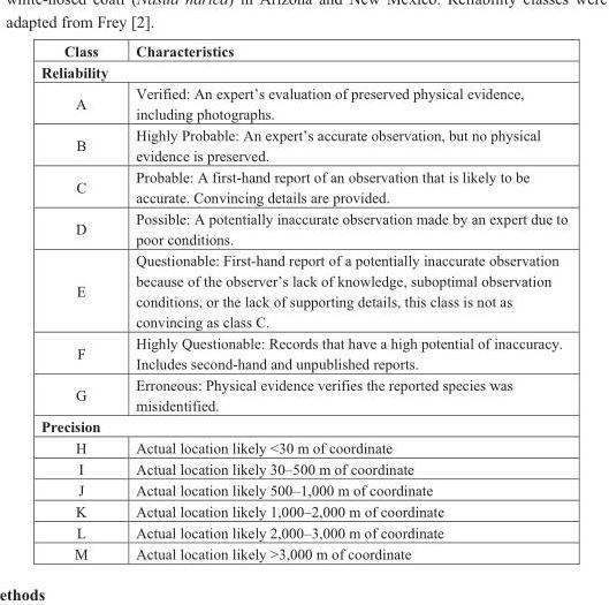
<table><thead><tr><td>Class</td><td>Characteristics</td></tr></thead><tbody><tr><td colspan="2">Reliability</td></tr><tr><td>A</td><td>Verified: An expert’s evaluation of preserved physical evidence, including photographs.</td></tr><tr><td>B</td><td>Highly Probable: An expert’s accurate observation, but no physical evidence is preserved.</td></tr><tr><td>C</td><td>Probable: A first-hand report of an observation that is likely to be accurate. Convincing details are provided.</td></tr><tr><td>D</td><td>Possible: A potentially inaccurate observation made by an expert due to poor conditions.</td></tr><tr><td>E</td><td>Questionable: First-hand report of a potentially inaccurate observation because of the observer’s lack of knowledge, suboptimal observation conditions, or the lack of supporting details, this class is not as convincing as class C.</td></tr><tr><td>F</td><td>Highly Questionable: Records that have a high potential of inaccuracy. Includes second-hand and unpublished reports.</td></tr><tr><td>G</td><td>Erroneous: Physical evidence verifies the reported species was misidentified.</td></tr><tr><td colspan="2">Precision</td></tr><tr><td>H</td><td>Actual location likely &lt;30 m of coordinate</td></tr><tr><td>I</td><td>Actual location likely 30–500 m of coordinate</td></tr><tr><td>J</td><td>Actual location likely 500–1,000 m of coordinate</td></tr><tr><td>K</td><td>Actual location likely 1,000–2,000 m of coordinate</td></tr><tr><td>L</td><td>Actual location likely 2,000–3,000 m of coordinate</td></tr><tr><td>M</td><td>Actual location likely &gt;3,000 m of coordinate</td></tr></tbody></table>